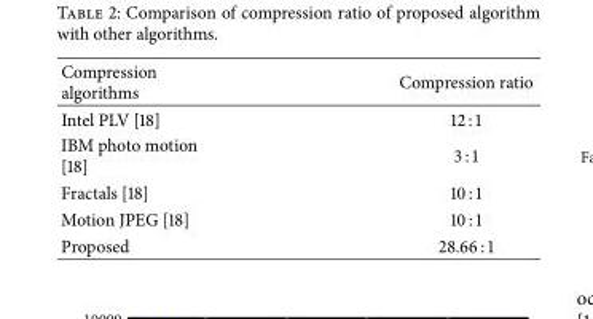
<table><thead><tr><td>Compression algorithms</td><td>Compression ratio</td></tr></thead><tbody><tr><td>Intel PLV [18]</td><td>12 : 1</td></tr><tr><td>IBM photo motion [18]</td><td>3 : 1</td></tr><tr><td>Fractals [18]</td><td>10 : 1</td></tr><tr><td>Motion JPEG [18]</td><td>10 : 1</td></tr><tr><td>Proposed</td><td>28.66 : 1</td></tr></tbody></table>